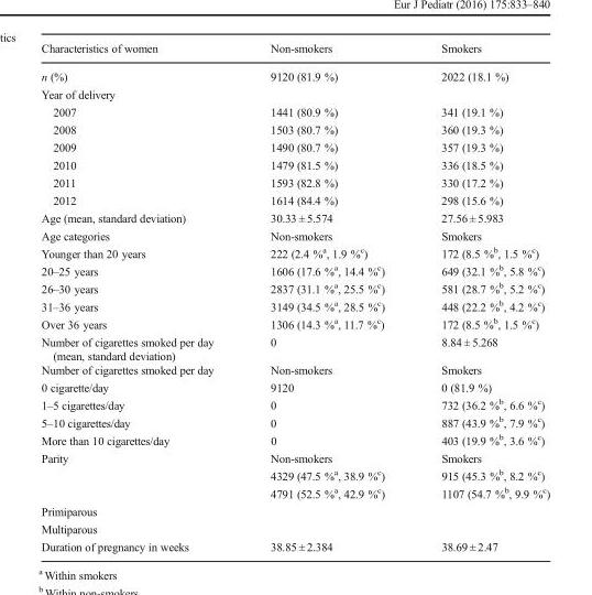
<table><thead><tr><td>Characteristics of women</td><td>Non-smokers</td><td>Smokers</td></tr></thead><tbody><tr><td>n (%)</td><td>9120 (81.9 %)</td><td>2022 (18.1 %)</td></tr><tr><td colspan="3">Year of delivery</td></tr><tr><td>2007</td><td>1441 (80.9 %)</td><td>341 (19.1 %)</td></tr><tr><td>2008</td><td>1503 (80.7 %)</td><td>360 (19.3 %)</td></tr><tr><td>2009</td><td>1490 (80.7 %)</td><td>357 (19.3 %)</td></tr><tr><td>2010</td><td>1479 (81.5 %)</td><td>336 (18.5 %)</td></tr><tr><td>2011</td><td>1593 (82.8 %)</td><td>330 (17.2 %)</td></tr><tr><td>2012</td><td>1614 (84.4 %)</td><td>298 (15.6 %)</td></tr><tr><td>Age (mean, standard deviation)</td><td>30.33 ± 5.574</td><td>27.56 ± 5.983</td></tr><tr><td>Age categories</td><td>Non-smokers</td><td>Smokers</td></tr><tr><td>Younger than 20 years</td><td>222 (2.4 %<sup>a</sup>, 1.9 %<sup>c</sup>)</td><td>172 (8.5 %<sup>b</sup>, 1.5 %<sup>c</sup>)</td></tr><tr><td>20–25 years</td><td>1606 (17.6 %<sup>a</sup>, 14.4 %<sup>c</sup>)</td><td>649 (32.1 %<sup>b</sup>, 5.8 %<sup>c</sup>)</td></tr><tr><td>26–30 years</td><td>2837 (31.1 %<sup>a</sup>, 25.5 %<sup>c</sup>)</td><td>581 (28.7 %<sup>b</sup>, 5.2 %<sup>c</sup>)</td></tr><tr><td>31–36 years</td><td>3149 (34.5 %<sup>a</sup>, 28.5 %<sup>c</sup>)</td><td>448 (22.2 %<sup>b</sup>, 4.2 %<sup>c</sup>)</td></tr><tr><td>Over 36 years</td><td>1306 (14.3 %<sup>a</sup>, 11.7 %<sup>c</sup>)</td><td>172 (8.5 %<sup>b</sup>, 1.5 %<sup>c</sup>)</td></tr><tr><td>Number of cigarettes smoked per day (mean, standard deviation)</td><td>0</td><td>8.84 ± 5.268</td></tr><tr><td>Number of cigarettes smoked per day</td><td>Non-smokers</td><td>Smokers</td></tr><tr><td>0 cigarette/day</td><td>9120</td><td>0 (81.9 %)</td></tr><tr><td>1–5 cigarettes/day</td><td>0</td><td>732 (36.2 %<sup>b</sup>, 6.6 %<sup>c</sup>)</td></tr><tr><td>5–10 cigarettes/day</td><td>0</td><td>887 (43.9 %<sup>b</sup>, 7.9 %<sup>c</sup>)</td></tr><tr><td>More than 10 cigarettes/day</td><td>0</td><td>403 (19.9 %<sup>b</sup>, 3.6 %<sup>c</sup>)</td></tr><tr><td rowspan="3">Parity</td><td>Non-smokers</td><td>Smokers</td></tr><tr><td>4329 (47.5 %<sup>a</sup>, 38.9 %<sup>c</sup>)</td><td>915 (45.3 %<sup>b</sup>, 8.2 %<sup>c</sup>)</td></tr><tr><td>4791 (52.5 %<sup>a</sup>, 42.9 %<sup>c</sup>)</td><td>1107 (54.7 %<sup>b</sup>, 9.9 %<sup>c</sup>)</td></tr><tr><td colspan="3">Primiparous</td></tr><tr><td colspan="3">Multiparous</td></tr><tr><td>Duration of pregnancy in weeks</td><td>38.85 ± 2.384</td><td>38.69 ± 2.47</td></tr></tbody></table>